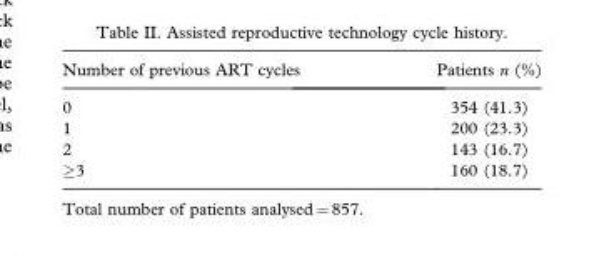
<table><thead><tr><td>Number of previous ART cycles</td><td>Patients n (%)</td></tr></thead><tbody><tr><td>0</td><td>354 (41.3)</td></tr><tr><td>1</td><td>200 (23.3)</td></tr><tr><td>2</td><td>143 (16.7)</td></tr><tr><td>≥3</td><td>160 (18.7)</td></tr></tbody></table>